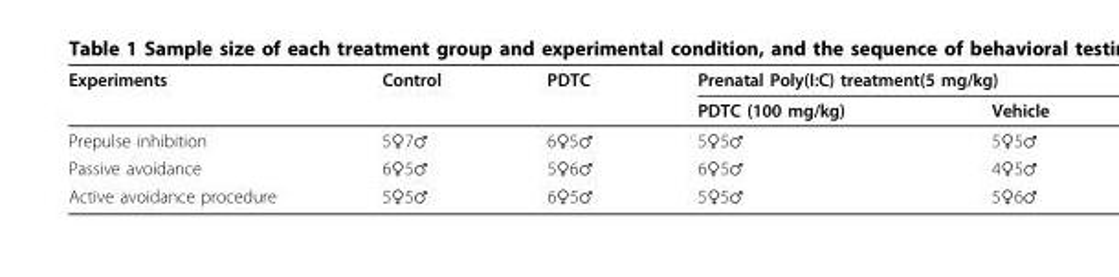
<table><thead><tr><td rowspan="2">Experiments</td><td rowspan="2">Control</td><td rowspan="2">PDTC</td><td colspan="2">Prenatal Poly(I:C) treatment(5 mg/kg)</td></tr><tr><td>PDTC (100 mg/kg)</td><td>Vehicle</td></tr></thead><tbody><tr><td>Prepulse inhibition</td><td>5♀7♂</td><td>6♀5♂</td><td>5♀5♂</td><td>5♀5♂</td></tr><tr><td>Passive avoidance</td><td>6♀5♂</td><td>5♀6♂</td><td>6♀5♂</td><td>4♀5♂</td></tr><tr><td>Active avoidance procedure</td><td>5♀5♂</td><td>6♀5♂</td><td>5♀5♂</td><td>5♀6♂</td></tr></tbody></table>